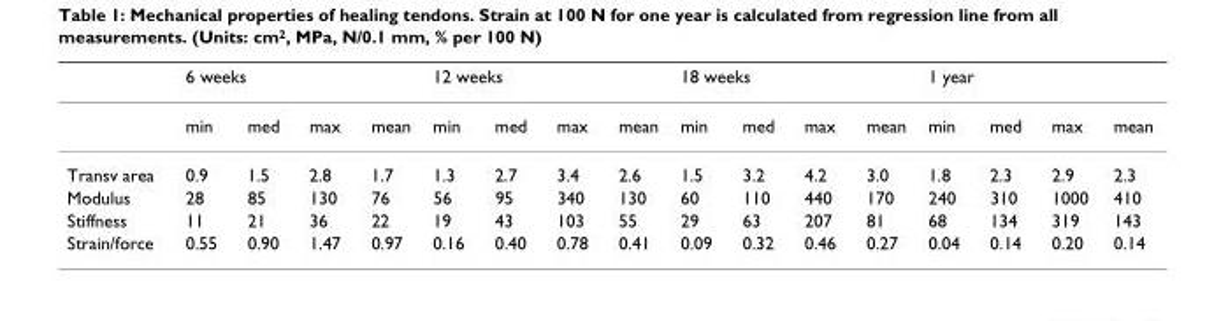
<table><thead><tr><td rowspan="2"></td><td colspan="4">6 weeks</td><td colspan="4">12 weeks</td><td colspan="4">18 weeks</td><td colspan="4">1 year</td></tr><tr><td>min</td><td>med</td><td>max</td><td>mean</td><td>min</td><td>med</td><td>max</td><td>mean</td><td>min</td><td>med</td><td>max</td><td>mean</td><td>min</td><td>med</td><td>max</td><td>mean</td></tr></thead><tbody><tr><td>Transv area</td><td>0.9</td><td>1.5</td><td>2.8</td><td>1.7</td><td>1.3</td><td>2.7</td><td>3.4</td><td>2.6</td><td>1.5</td><td>3.2</td><td>4.2</td><td>3.0</td><td>1.8</td><td>2.3</td><td>2.9</td><td>2.3</td></tr><tr><td>Modulus</td><td>28</td><td>85</td><td>130</td><td>76</td><td>56</td><td>95</td><td>340</td><td>130</td><td>60</td><td>110</td><td>440</td><td>170</td><td>240</td><td>310</td><td>1000</td><td>410</td></tr><tr><td>Stiffness</td><td>11</td><td>21</td><td>36</td><td>22</td><td>19</td><td>43</td><td>103</td><td>55</td><td>29</td><td>63</td><td>207</td><td>81</td><td>68</td><td>134</td><td>319</td><td>143</td></tr><tr><td>Strain/force</td><td>0.55</td><td>0.90</td><td>1.47</td><td>0.97</td><td>0.16</td><td>0.40</td><td>0.78</td><td>0.41</td><td>0.09</td><td>0.32</td><td>0.46</td><td>0.27</td><td>0.04</td><td>0.14</td><td>0.20</td><td>0.14</td></tr></tbody></table>